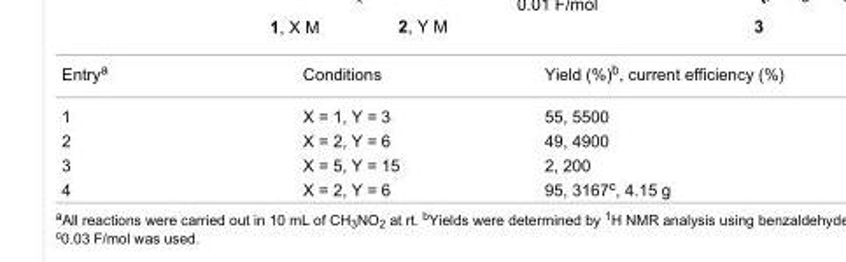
<table><tbody><tr><td>Entry<sup>a</sup></td><td>Conditions</td><td>Yield (%)<sup>b</sup>, current efficiency (%)</td></tr><tr><td>1</td><td>X = 1, Y = 3</td><td>55, 5500</td></tr><tr><td>2</td><td>X = 2, Y = 6</td><td>49, 4900</td></tr><tr><td>3</td><td>X = 5, Y = 15</td><td>2, 200</td></tr><tr><td>4</td><td>X = 2, Y = 6</td><td>95, 3167<sup>c</sup>, 4.15 g</td></tr></tbody></table>